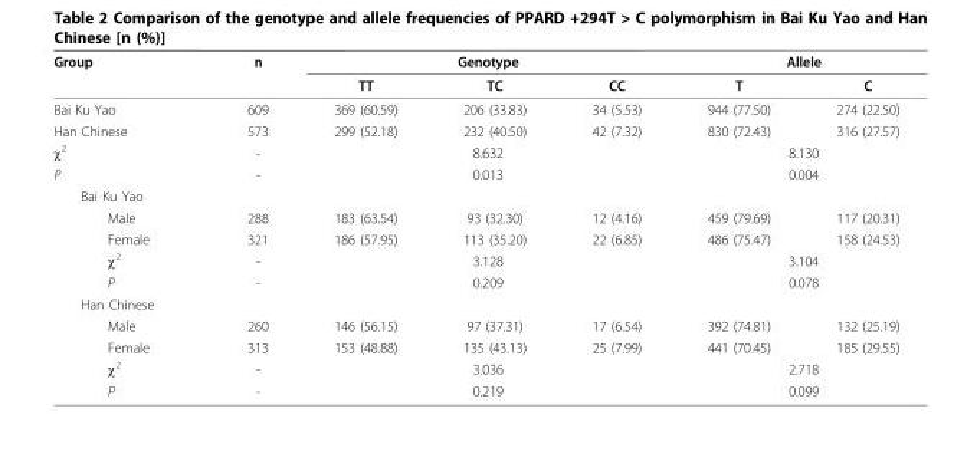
<table><thead><tr><td rowspan="2">Group</td><td rowspan="2">n</td><td colspan="3">Genotype</td><td colspan="2">Allele</td></tr><tr><td>TT</td><td>TC</td><td>CC</td><td>T</td><td>C</td></tr></thead><tbody><tr><td>Bai Ku Yao</td><td>609</td><td>369 (60.59)</td><td>206 (33.83)</td><td>34 (5.53)</td><td>944 (77.50)</td><td>274 (22.50)</td></tr><tr><td>Han Chinese</td><td>573</td><td>299 (52.18)</td><td>232 (40.50)</td><td>42 (7.32)</td><td>830 (72.43)</td><td>316 (27.57)</td></tr><tr><td>χ<sup>2</sup></td><td>-</td><td colspan="3">8.632</td><td colspan="2">8.130</td></tr><tr><td>P</td><td>-</td><td colspan="3">0.013</td><td colspan="2">0.004</td></tr><tr><td colspan="7">Bai Ku Yao</td></tr><tr><td>Male</td><td>288</td><td>183 (63.54)</td><td>93 (32.30)</td><td>12 (4.16)</td><td>459 (79.69)</td><td>117 (20.31)</td></tr><tr><td>Female</td><td>321</td><td>186 (57.95)</td><td>113 (35.20)</td><td>22 (6.85)</td><td>486 (75.47)</td><td>158 (24.53)</td></tr><tr><td>χ<sup>2</sup></td><td>-</td><td colspan="3">3.128</td><td colspan="2">3.104</td></tr><tr><td>P</td><td>-</td><td colspan="3">0.209</td><td colspan="2">0.078</td></tr><tr><td colspan="7">Han Chinese</td></tr><tr><td>Male</td><td>260</td><td>146 (56.15)</td><td>97 (37.31)</td><td>17 (6.54)</td><td>392 (74.81)</td><td>132 (25.19)</td></tr><tr><td>Female</td><td>313</td><td>153 (48.88)</td><td>135 (43.13)</td><td>25 (7.99)</td><td>441 (70.45)</td><td>185 (29.55)</td></tr><tr><td>χ<sup>2</sup></td><td>-</td><td colspan="3">3.036</td><td colspan="2">2.718</td></tr><tr><td>P</td><td>-</td><td colspan="3">0.219</td><td colspan="2">0.099</td></tr></tbody></table>